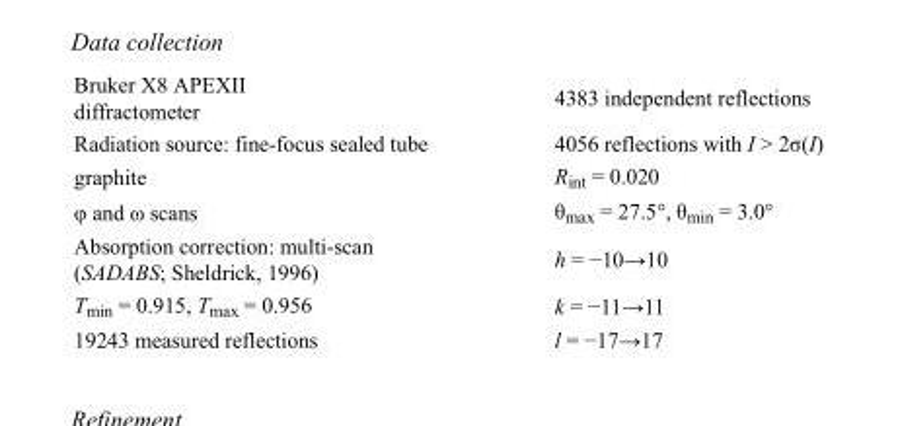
<table><tbody><tr><td>Bruker X8 APEXII diffractometer</td><td>4383 independent reflections</td></tr><tr><td>Radiation source: fine-focus sealed tube</td><td>4056 reflections with I &gt; 2σ(I)</td></tr><tr><td>graphite</td><td>R<sub>int</sub> = 0.020</td></tr><tr><td>φ and ω scans</td><td>θ<sub>max</sub> = 27.5°, θ<sub>min</sub> = 3.0°</td></tr><tr><td>Absorption correction: multi-scan (SADABS; Sheldrick, 1996)</td><td>h = −10→10</td></tr><tr><td>T<sub>min</sub> = 0.915, T<sub>max</sub> = 0.956</td><td>k = −11→11</td></tr><tr><td>19243 measured reflections</td><td>l = −17→17</td></tr></tbody></table>